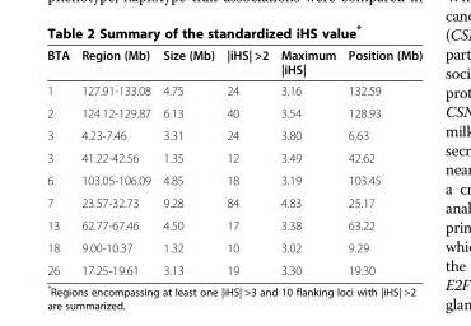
<table><thead><tr><td>BTA</td><td>Region (Mb)</td><td>Size (Mb)</td><td>|iHS| &gt;2</td><td>Maximum |iHS|</td><td>Position (Mb)</td></tr></thead><tbody><tr><td>1</td><td>127.91-133.08</td><td>4.75</td><td>24</td><td>3.16</td><td>132.59</td></tr><tr><td>2</td><td>124.12-129.87</td><td>6.13</td><td>40</td><td>3.54</td><td>128.93</td></tr><tr><td>3</td><td>4.23-7.46</td><td>3.31</td><td>24</td><td>3.80</td><td>6.63</td></tr><tr><td>3</td><td>41.22-42.56</td><td>1.35</td><td>12</td><td>3.49</td><td>42.62</td></tr><tr><td>6</td><td>103.05-106.09</td><td>4.85</td><td>18</td><td>3.19</td><td>103.45</td></tr><tr><td>7</td><td>23.57-32.73</td><td>9.28</td><td>84</td><td>4.83</td><td>25.17</td></tr><tr><td>13</td><td>62.77-67.46</td><td>4.50</td><td>17</td><td>3.38</td><td>63.22</td></tr><tr><td>18</td><td>9.00-10.37</td><td>1.32</td><td>10</td><td>3.02</td><td>9.29</td></tr><tr><td>26</td><td>17.25-19.61</td><td>3.13</td><td>19</td><td>3.30</td><td>19.30</td></tr></tbody></table>